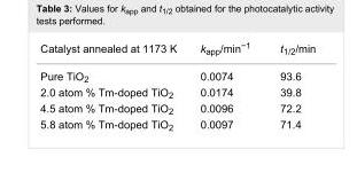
<table><tbody><tr><td>Catalyst annealed at 1173 K</td><td>k<sub>app</sub>/min<sup>−1</sup></td><td>t<sub>1/2</sub>/min</td></tr><tr><td>Pure TiO<sub>2</sub></td><td>0.0074</td><td>93.6</td></tr><tr><td>2.0 atom % Tm-doped TiO<sub>2</sub></td><td>0.0174</td><td>39.8</td></tr><tr><td>4.5 atom % Tm-doped TiO<sub>2</sub></td><td>0.0096</td><td>72.2</td></tr><tr><td>5.8 atom % Tm-doped TiO<sub>2</sub></td><td>0.0097</td><td>71.4</td></tr></tbody></table>